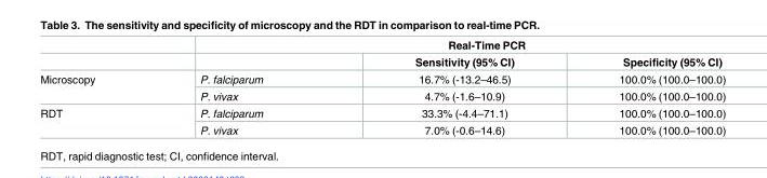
<table><thead><tr><td rowspan="2"></td><td colspan="3">Real-Time PCR</td></tr><tr><td></td><td>Sensitivity (95% CI)</td><td>Specificity (95% CI)</td></tr></thead><tbody><tr><td rowspan="2">Microscopy</td><td>P. falciparum</td><td>16.7% (-13.2–46.5)</td><td>100.0% (100.0–100.0)</td></tr><tr><td>P. vivax</td><td>4.7% (-1.6–10.9)</td><td>100.0% (100.0–100.0)</td></tr><tr><td rowspan="2">RDT</td><td>P. falciparum</td><td>33.3% (-4.4–71.1)</td><td>100.0% (100.0–100.0)</td></tr><tr><td>P. vivax</td><td>7.0% (-0.6–14.6)</td><td>100.0% (100.0–100.0)</td></tr></tbody></table>